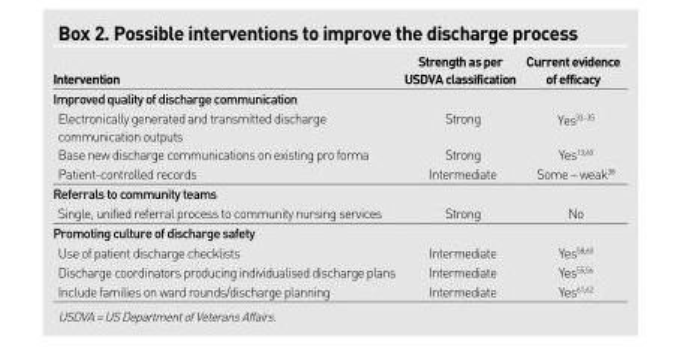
<table><thead><tr><td>Intervention</td><td>Strength as per USDVA classification</td><td>Current evidence of efficacy</td></tr></thead><tbody><tr><td colspan="3">Improved quality of discharge communication</td></tr><tr><td>Electronically generated and transmitted discharge communication outputs</td><td>Strong</td><td>Yes<sup>33</sup>–<sup>35</sup></td></tr><tr><td>Base new discharge communications on existing pro forma</td><td>Strong</td><td>Yes<sup>13</sup>,<sup>60</sup></td></tr><tr><td>Patient-controlled records</td><td>Intermediate</td><td>Some – weak<sup>38</sup></td></tr><tr><td colspan="3">Referrals to community teams</td></tr><tr><td>Single, unified referral process to community nursing services</td><td>Strong</td><td>No</td></tr><tr><td colspan="3">Promoting culture of discharge safety</td></tr><tr><td>Use of patient discharge checklists</td><td>Intermediate</td><td>Yes<sup>58</sup>,<sup>60</sup></td></tr><tr><td>Discharge coordinators producing individualised discharge plans</td><td>Intermediate</td><td>Yes<sup>55</sup>,<sup>56</sup></td></tr><tr><td>Include families on ward rounds/discharge planning</td><td>Intermediate</td><td>Yes<sup>61</sup>,<sup>62</sup></td></tr></tbody></table>